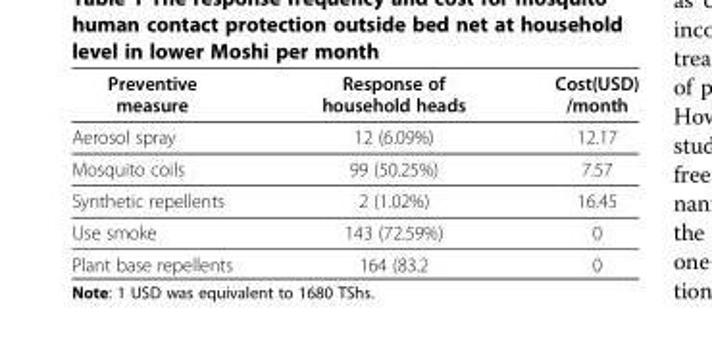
<table><thead><tr><td>Preventive measure</td><td>Response of household heads</td><td>Cost(USD) /month</td></tr></thead><tbody><tr><td>Aerosol spray</td><td>12 (6.09%)</td><td>12.17</td></tr><tr><td>Mosquito coils</td><td>99 (50.25%)</td><td>7.57</td></tr><tr><td>Synthetic repellents</td><td>2 (1.02%)</td><td>16.45</td></tr><tr><td>Use smoke</td><td>143 (72.59%)</td><td>0</td></tr><tr><td>Plant base repellents</td><td>164 (83.2</td><td>0</td></tr></tbody></table>